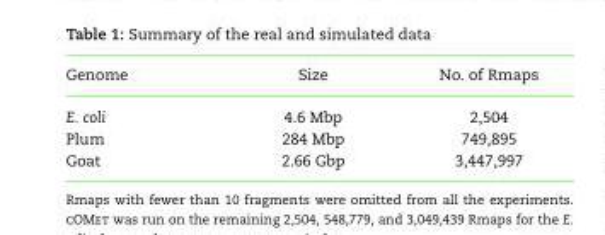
<table><thead><tr><td>Genome</td><td>Size</td><td>No. of Rmaps</td></tr></thead><tbody><tr><td>E. coli</td><td>4.6 Mbp</td><td>2,504</td></tr><tr><td>Plum</td><td>284 Mbp</td><td>749,895</td></tr><tr><td>Goat</td><td>2.66 Gbp</td><td>3,447,997</td></tr></tbody></table>